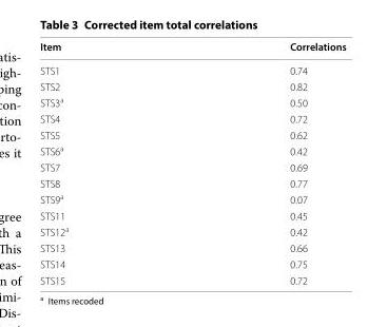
<table><thead><tr><td>Item</td><td>Correlations</td></tr></thead><tbody><tr><td>STS1</td><td>0.74</td></tr><tr><td>STS2</td><td>0.82</td></tr><tr><td>STS3<sup>a</sup></td><td>0.50</td></tr><tr><td>STS4</td><td>0.72</td></tr><tr><td>STS5</td><td>0.62</td></tr><tr><td>STS6<sup>a</sup></td><td>0.42</td></tr><tr><td>STS7</td><td>0.69</td></tr><tr><td>STS8</td><td>0.77</td></tr><tr><td>STS9<sup>a</sup></td><td>0.07</td></tr><tr><td>STS11</td><td>0.45</td></tr><tr><td>STS12<sup>a</sup></td><td>0.42</td></tr><tr><td>STS13</td><td>0.66</td></tr><tr><td>STS14</td><td>0.75</td></tr><tr><td>STS15</td><td>0.72</td></tr></tbody></table>